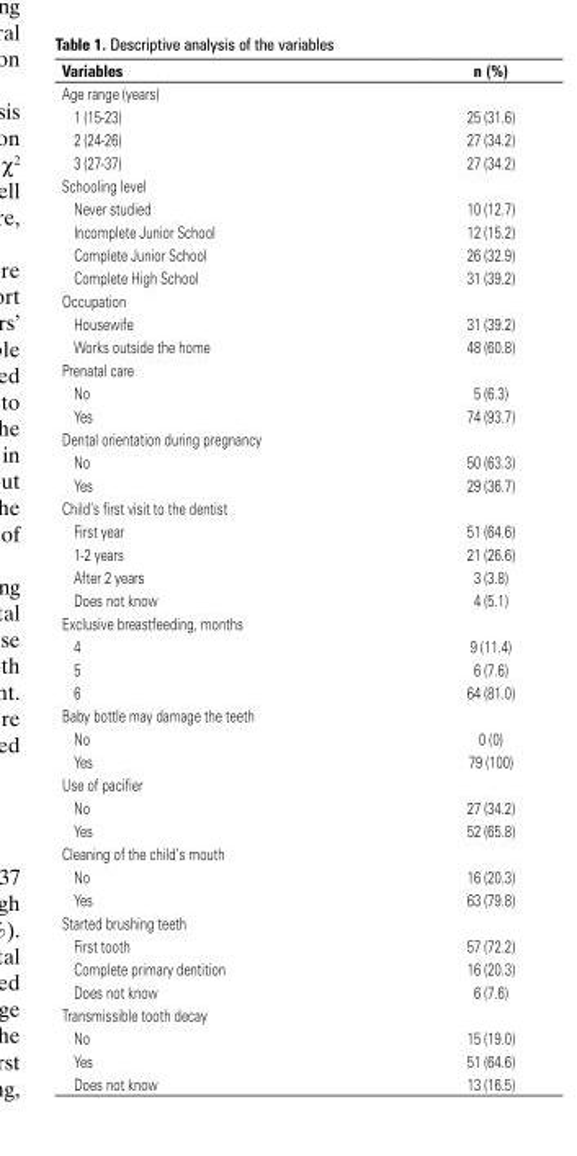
<table><thead><tr><td>Variables</td><td>n (%)</td></tr></thead><tbody><tr><td colspan="2">Age range (years)</td></tr><tr><td>1 (15-23)</td><td>25 (31.6)</td></tr><tr><td>2 (24-26)</td><td>27 (34.2)</td></tr><tr><td>3 (27-37)</td><td>27 (34.2)</td></tr><tr><td colspan="2">Schooling level</td></tr><tr><td>Never studied</td><td>10 (12.7)</td></tr><tr><td>Incomplete Junior School</td><td>12 (15.2)</td></tr><tr><td>Complete Junior School</td><td>26 (32.9)</td></tr><tr><td>Complete High School</td><td>31 (39.2)</td></tr><tr><td colspan="2">Occupation</td></tr><tr><td>Housewife</td><td>31 (39.2)</td></tr><tr><td>Works outside the home</td><td>48 (60.8)</td></tr><tr><td colspan="2">Prenatal care</td></tr><tr><td>No</td><td>5 (6.3)</td></tr><tr><td>Yes</td><td>74 (93.7)</td></tr><tr><td colspan="2">Dental orientation during pregnancy</td></tr><tr><td>No</td><td>50 (63.3)</td></tr><tr><td>Yes</td><td>29 (36.7)</td></tr><tr><td colspan="2">Child’s first visit to the dentist</td></tr><tr><td>First year</td><td>51 (64.6)</td></tr><tr><td>1-2 years</td><td>21 (26.6)</td></tr><tr><td>After 2 years</td><td>3 (3.8)</td></tr><tr><td>Does not know</td><td>4 (5.1)</td></tr><tr><td colspan="2">Exclusive breastfeeding, months</td></tr><tr><td>4</td><td>9 (11.4)</td></tr><tr><td>5</td><td>6 (7.6)</td></tr><tr><td>6</td><td>64 (81.0)</td></tr><tr><td colspan="2">Baby bottle may damage the teeth</td></tr><tr><td>No</td><td>0 (0)</td></tr><tr><td>Yes</td><td>79 (100)</td></tr><tr><td colspan="2">Use of pacifier</td></tr><tr><td>No</td><td>27 (34.2)</td></tr><tr><td>Yes</td><td>52 (65.8)</td></tr><tr><td colspan="2">Cleaning of the child’s mouth</td></tr><tr><td>No</td><td>16 (20.3)</td></tr><tr><td>Yes</td><td>63 (79.8)</td></tr><tr><td colspan="2">Started brushing teeth</td></tr><tr><td>First tooth</td><td>57 (72.2)</td></tr><tr><td>Complete primary dentition</td><td>16 (20.3)</td></tr><tr><td>Does not know</td><td>6 (7.6)</td></tr><tr><td colspan="2">Transmissible tooth decay</td></tr><tr><td>No</td><td>15 (19.0)</td></tr><tr><td>Yes</td><td>51 (64.6)</td></tr><tr><td>Does not know</td><td>13 (16.5)</td></tr></tbody></table>